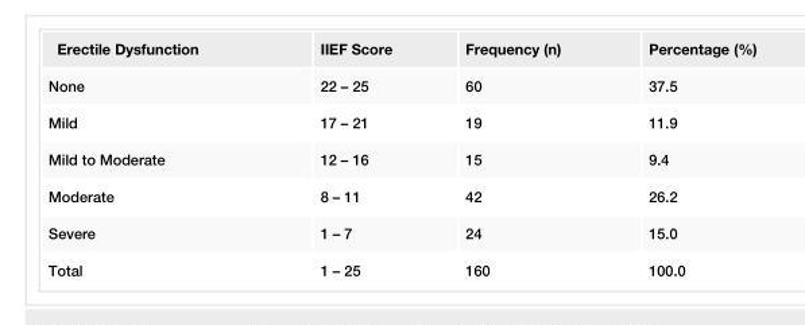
<table><tbody><tr><td>Erectile Dysfunction</td><td>IIEF Score</td><td>Frequency (n)</td><td>Percentage (%)</td></tr><tr><td>None</td><td>22 – 25</td><td>60</td><td>37.5</td></tr><tr><td>Mild</td><td>17 – 21</td><td>19</td><td>11.9</td></tr><tr><td>Mild to Moderate</td><td>12 – 16</td><td>15</td><td>9.4</td></tr><tr><td>Moderate</td><td>8 – 11</td><td>42</td><td>26.2</td></tr><tr><td>Severe</td><td>1 – 7</td><td>24</td><td>15.0</td></tr><tr><td>Total</td><td>1 – 25</td><td>160</td><td>100.0</td></tr></tbody></table>